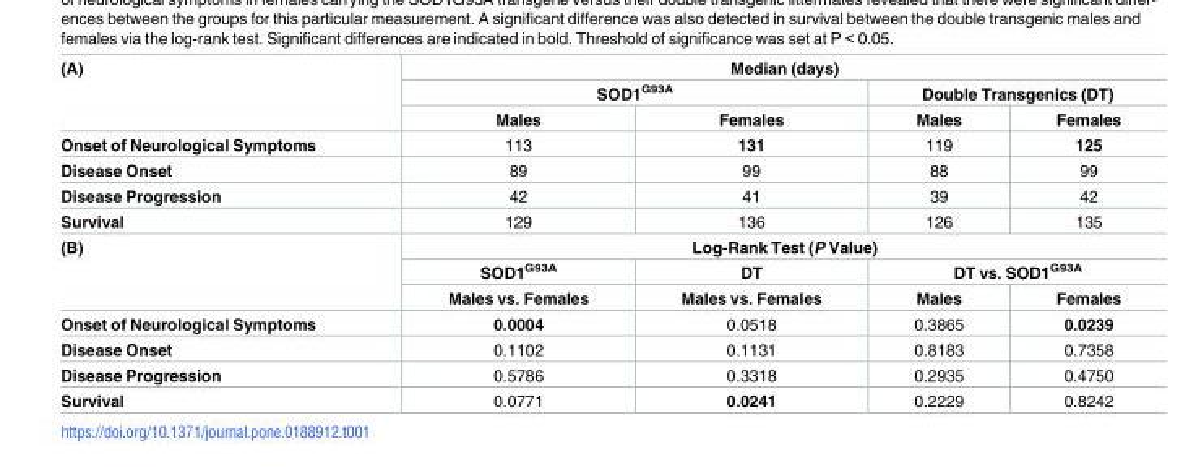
<table><tbody><tr><td rowspan="3">(A)</td><td colspan="4">Median (days)</td></tr><tr><td colspan="2">SOD1<sup>G93A</sup></td><td colspan="2">Double Transgenics (DT)</td></tr><tr><td>Males</td><td>Females</td><td>Males</td><td>Females</td></tr><tr><td>Onset of Neurological Symptoms</td><td>113</td><td>131</td><td>119</td><td>125</td></tr><tr><td>Disease Onset</td><td>89</td><td>99</td><td>88</td><td>99</td></tr><tr><td>Disease Progression</td><td>42</td><td>41</td><td>39</td><td>42</td></tr><tr><td>Survival</td><td>129</td><td>136</td><td>126</td><td>135</td></tr><tr><td rowspan="3">(B)</td><td colspan="4">Log-Rank Test (P Value)</td></tr><tr><td>SOD1<sup>G93A</sup></td><td>DT</td><td colspan="2">DT vs. SOD1<sup>G93A</sup></td></tr><tr><td>Males vs. Females</td><td>Males vs. Females</td><td>Males</td><td>Females</td></tr><tr><td>Onset of Neurological Symptoms</td><td>0.0004</td><td>0.0518</td><td>0.3865</td><td>0.0239</td></tr><tr><td>Disease Onset</td><td>0.1102</td><td>0.1131</td><td>0.8183</td><td>0.7358</td></tr><tr><td>Disease Progression</td><td>0.5786</td><td>0.3318</td><td>0.2935</td><td>0.4750</td></tr><tr><td>Survival</td><td>0.0771</td><td>0.0241</td><td>0.2229</td><td>0.8242</td></tr></tbody></table>